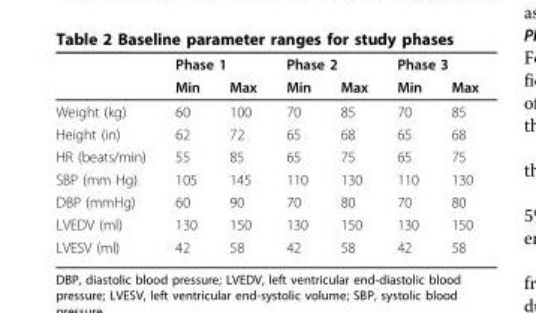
<table><thead><tr><td rowspan="2"></td><td colspan="2">Phase 1</td><td colspan="2">Phase 2</td><td colspan="2">Phase 3</td></tr><tr><td>Min</td><td>Max</td><td>Min</td><td>Max</td><td>Min</td><td>Max</td></tr></thead><tbody><tr><td>Weight (kg)</td><td>60</td><td>100</td><td>70</td><td>85</td><td>70</td><td>85</td></tr><tr><td>Height (in)</td><td>62</td><td>72</td><td>65</td><td>68</td><td>65</td><td>68</td></tr><tr><td>HR (beats/min)</td><td>55</td><td>85</td><td>65</td><td>75</td><td>65</td><td>75</td></tr><tr><td>SBP (mm Hg)</td><td>105</td><td>145</td><td>110</td><td>130</td><td>110</td><td>130</td></tr><tr><td>DBP (mmHg)</td><td>60</td><td>90</td><td>70</td><td>80</td><td>70</td><td>80</td></tr><tr><td>LVEDV (ml)</td><td>130</td><td>150</td><td>130</td><td>150</td><td>130</td><td>150</td></tr><tr><td>LVESV (ml)</td><td>42</td><td>58</td><td>42</td><td>58</td><td>42</td><td>58</td></tr></tbody></table>